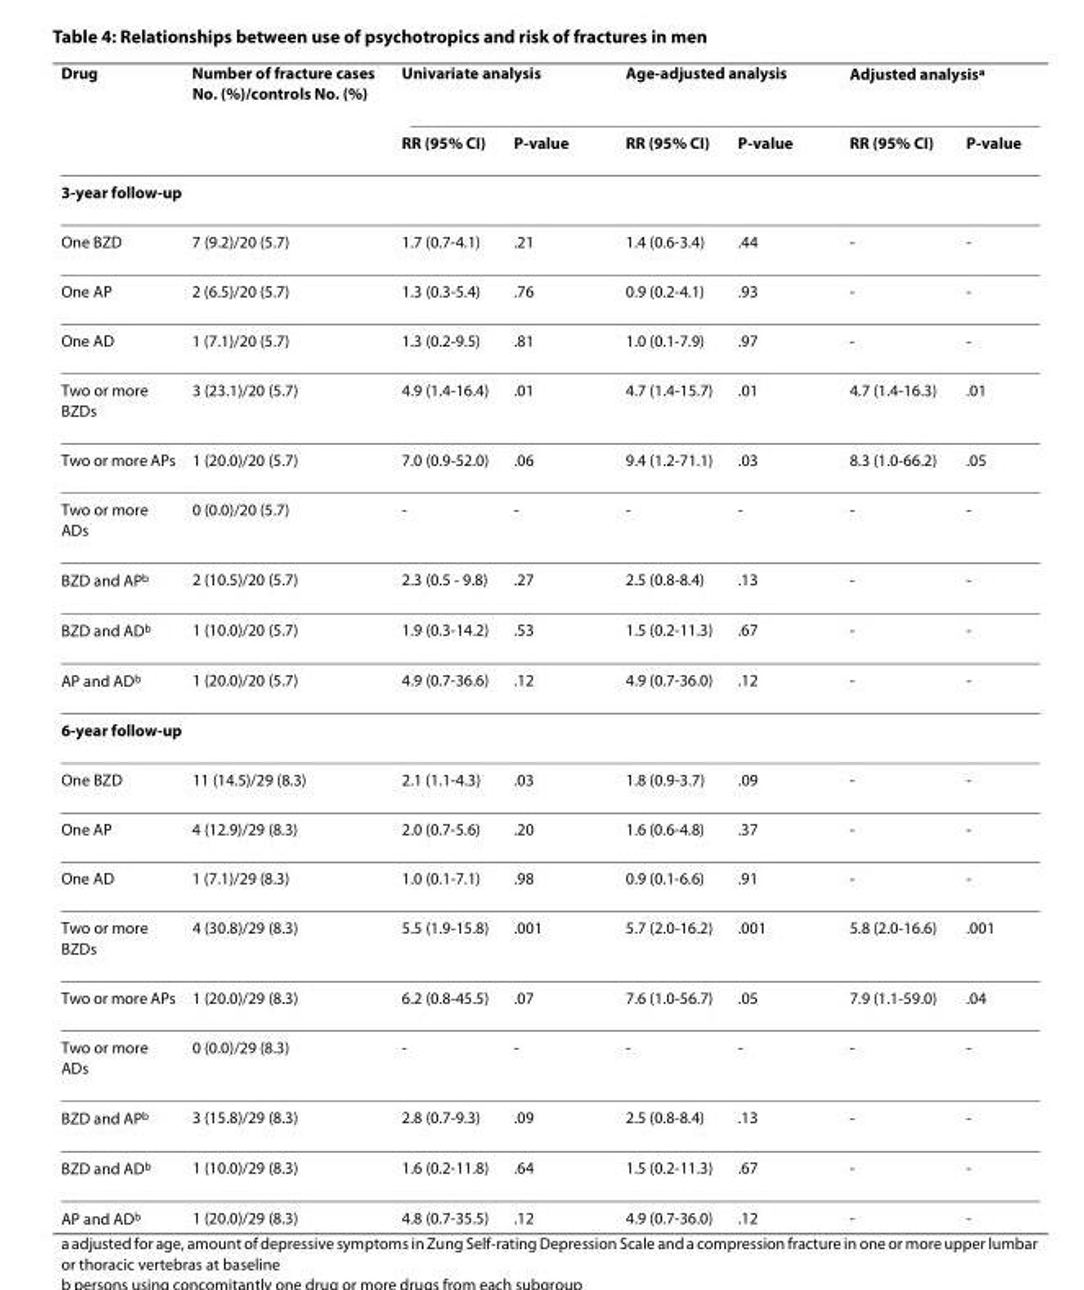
<table><thead><tr><td rowspan="2">Drug</td><td rowspan="2">Number of fracture cases No. (%)/controls No. (%)</td><td colspan="2">Univariate analysis</td><td colspan="2">Age-adjusted analysis</td><td colspan="2">Adjusted analysis<sup>a</sup></td></tr><tr><td>RR (95% CI)</td><td>P-value</td><td>RR (95% CI)</td><td>P-value</td><td>RR (95% CI)</td><td>P-value</td></tr></thead><tbody><tr><td colspan="8">3-year follow-up</td></tr><tr><td>One BZD</td><td>7 (9.2)/20 (5.7)</td><td>1.7 (0.7-4.1)</td><td>.21</td><td>1.4 (0.6-3.4)</td><td>.44</td><td>-</td><td>-</td></tr><tr><td>One AP</td><td>2 (6.5)/20 (5.7)</td><td>1.3 (0.3-5.4)</td><td>.76</td><td>0.9 (0.2-4.1)</td><td>.93</td><td>-</td><td>-</td></tr><tr><td>One AD</td><td>1 (7.1)/20 (5.7)</td><td>1.3 (0.2-9.5)</td><td>.81</td><td>1.0 (0.1-7.9)</td><td>.97</td><td>-</td><td>-</td></tr><tr><td>Two or more BZDs</td><td>3 (23.1)/20 (5.7)</td><td>4.9 (1.4-16.4)</td><td>.01</td><td>4.7 (1.4-15.7)</td><td>.01</td><td>4.7 (1.4-16.3)</td><td>.01</td></tr><tr><td>Two or more APs</td><td>1 (20.0)/20 (5.7)</td><td>7.0 (0.9-52.0)</td><td>.06</td><td>9.4 (1.2-71.1)</td><td>.03</td><td>8.3 (1.0-66.2)</td><td>.05</td></tr><tr><td>Two or more ADs</td><td>0 (0.0)/20 (5.7)</td><td>-</td><td>-</td><td>-</td><td>-</td><td>-</td><td>-</td></tr><tr><td>BZD and AP<sup>b</sup></td><td>2 (10.5)/20 (5.7)</td><td>2.3 (0.5 - 9.8)</td><td>.27</td><td>2.5 (0.8-8.4)</td><td>.13</td><td>-</td><td>-</td></tr><tr><td>BZD and AD<sup>b</sup></td><td>1 (10.0)/20 (5.7)</td><td>1.9 (0.3-14.2)</td><td>.53</td><td>1.5 (0.2-11.3)</td><td>.67</td><td>-</td><td>-</td></tr><tr><td>AP and AD<sup>b</sup></td><td>1 (20.0)/20 (5.7)</td><td>4.9 (0.7-36.6)</td><td>.12</td><td>4.9 (0.7-36.0)</td><td>.12</td><td>-</td><td>-</td></tr><tr><td colspan="8">6-year follow-up</td></tr><tr><td>One BZD</td><td>11 (14.5)/29 (8.3)</td><td>2.1 (1.1-4.3)</td><td>.03</td><td>1.8 (0.9-3.7)</td><td>.09</td><td>-</td><td>-</td></tr><tr><td>One AP</td><td>4 (12.9)/29 (8.3)</td><td>2.0 (0.7-5.6)</td><td>.20</td><td>1.6 (0.6-4.8)</td><td>.37</td><td>-</td><td>-</td></tr><tr><td>One AD</td><td>1 (7.1)/29 (8.3)</td><td>1.0 (0.1-7.1)</td><td>.98</td><td>0.9 (0.1-6.6)</td><td>.91</td><td>-</td><td>-</td></tr><tr><td>Two or more BZDs</td><td>4 (30.8)/29 (8.3)</td><td>5.5 (1.9-15.8)</td><td>.001</td><td>5.7 (2.0-16.2)</td><td>.001</td><td>5.8 (2.0-16.6)</td><td>.001</td></tr><tr><td>Two or more APs</td><td>1 (20.0)/29 (8.3)</td><td>6.2 (0.8-45.5)</td><td>.07</td><td>7.6 (1.0-56.7)</td><td>.05</td><td>7.9 (1.1-59.0)</td><td>.04</td></tr><tr><td>Two or more ADs</td><td>0 (0.0)/29 (8.3)</td><td>-</td><td>-</td><td>-</td><td>-</td><td>-</td><td>-</td></tr><tr><td>BZD and AP<sup>b</sup></td><td>3 (15.8)/29 (8.3)</td><td>2.8 (0.7-9.3)</td><td>.09</td><td>2.5 (0.8-8.4)</td><td>.13</td><td>-</td><td>-</td></tr><tr><td>BZD and AD<sup>b</sup></td><td>1 (10.0)/29 (8.3)</td><td>1.6 (0.2-11.8)</td><td>.64</td><td>1.5 (0.2-11.3)</td><td>.67</td><td>-</td><td>-</td></tr><tr><td>AP and AD<sup>b</sup></td><td>1 (20.0)/29 (8.3)</td><td>4.8 (0.7-35.5)</td><td>.12</td><td>4.9 (0.7-36.0)</td><td>.12</td><td>-</td><td>-</td></tr></tbody></table>